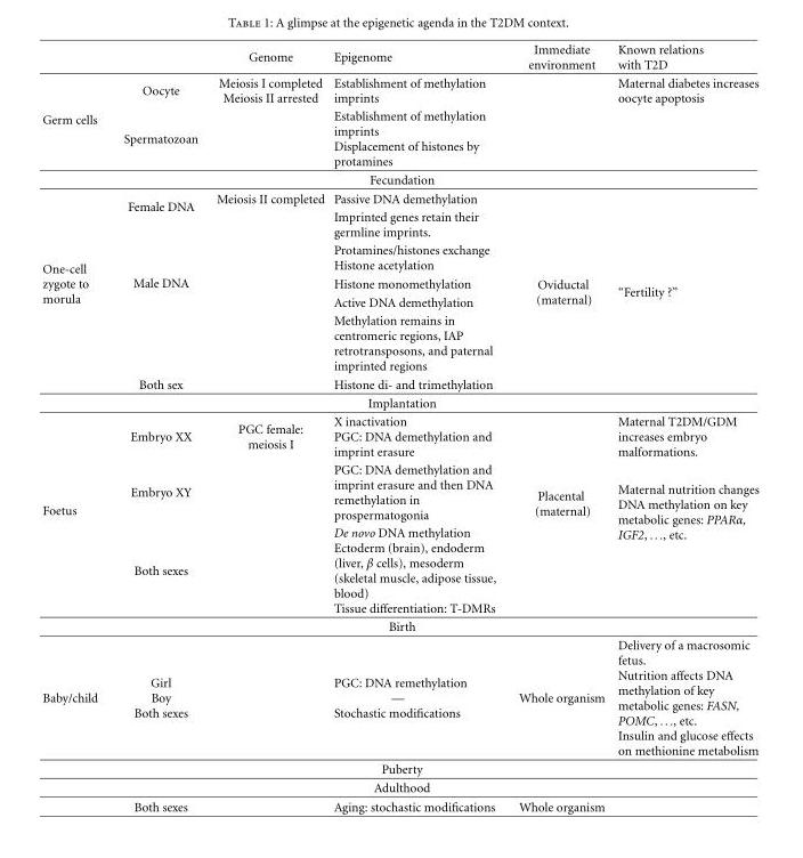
<table><thead><tr><td></td><td></td><td>Genome</td><td>Epigenome</td><td>Immediate environment</td><td>Known relations with T2D</td></tr></thead><tbody><tr><td rowspan="2">Germ cells</td><td>Oocyte</td><td>Meiosis I completed Meiosis II arrested</td><td>Establishment of methylation imprints</td><td></td><td>Maternal diabetes increases oocyte apoptosis</td></tr><tr><td>Spermatozoan</td><td></td><td>Establishment of methylation imprints Displacement of histones by protamines</td><td></td><td></td></tr><tr><td colspan="6">Fecundation</td></tr><tr><td rowspan="7">One-cell zygote to morula</td><td rowspan="2">Female DNA</td><td>Meiosis II completed</td><td>Passive DNA demethylation</td><td rowspan="2"></td><td rowspan="2"></td></tr><tr><td></td><td>Imprinted genes retain their germline imprints.</td></tr><tr><td rowspan="4">Male DNA</td><td></td><td>Protamines/histones exchange Histone acetylation</td><td rowspan="5">Oviductal (maternal)</td><td rowspan="5">“Fertility ?”</td></tr><tr><td></td><td>Histone monomethylation</td></tr><tr><td></td><td>Active DNA demethylation</td></tr><tr><td></td><td>Methylation remains in centromeric regions, IAP retrotransposons, and paternal imprinted regions</td></tr><tr><td>Both sex</td><td></td><td>Histone di- and trimethylation</td></tr><tr><td colspan="6">Implantation</td></tr><tr><td rowspan="3">Foetus</td><td>Embryo XX</td><td>PGC female: meiosis I</td><td>X inactivation PGC: DNA demethylation and imprint erasure</td><td rowspan="3">Placental (maternal)</td><td>Maternal T2DM/GDM increases embryo malformations.</td></tr><tr><td>Embryo XY</td><td></td><td>PGC: DNA demethylation and imprint erasure and then DNA remethylation in prospermatogonia</td><td rowspan="2">Maternal nutrition changes DNA methylation on key metabolic genes: PPARα, IGF2, ..., etc.</td></tr><tr><td>Both sexes</td><td></td><td>De novo DNA methylation Ectoderm (brain), endoderm (liver, β cells), mesoderm (skeletal muscle, adipose tissue, blood) Tissue differentiation: T-DMRs</td></tr><tr><td colspan="6">Birth</td></tr><tr><td>Baby/child</td><td>Girl Boy Both sexes</td><td></td><td>PGC: DNA remethylation — Stochastic modifications</td><td>Whole organism</td><td>Delivery of a macrosomic fetus. Nutrition affects DNA methylation of key metabolic genes: FASN, POMC, ..., etc. Insulin and glucose effects on methionine metabolism</td></tr><tr><td colspan="6">Puberty</td></tr><tr><td colspan="6">Adulthood</td></tr><tr><td></td><td>Both sexes</td><td></td><td>Aging: stochastic modifications</td><td>Whole organism</td><td></td></tr></tbody></table>